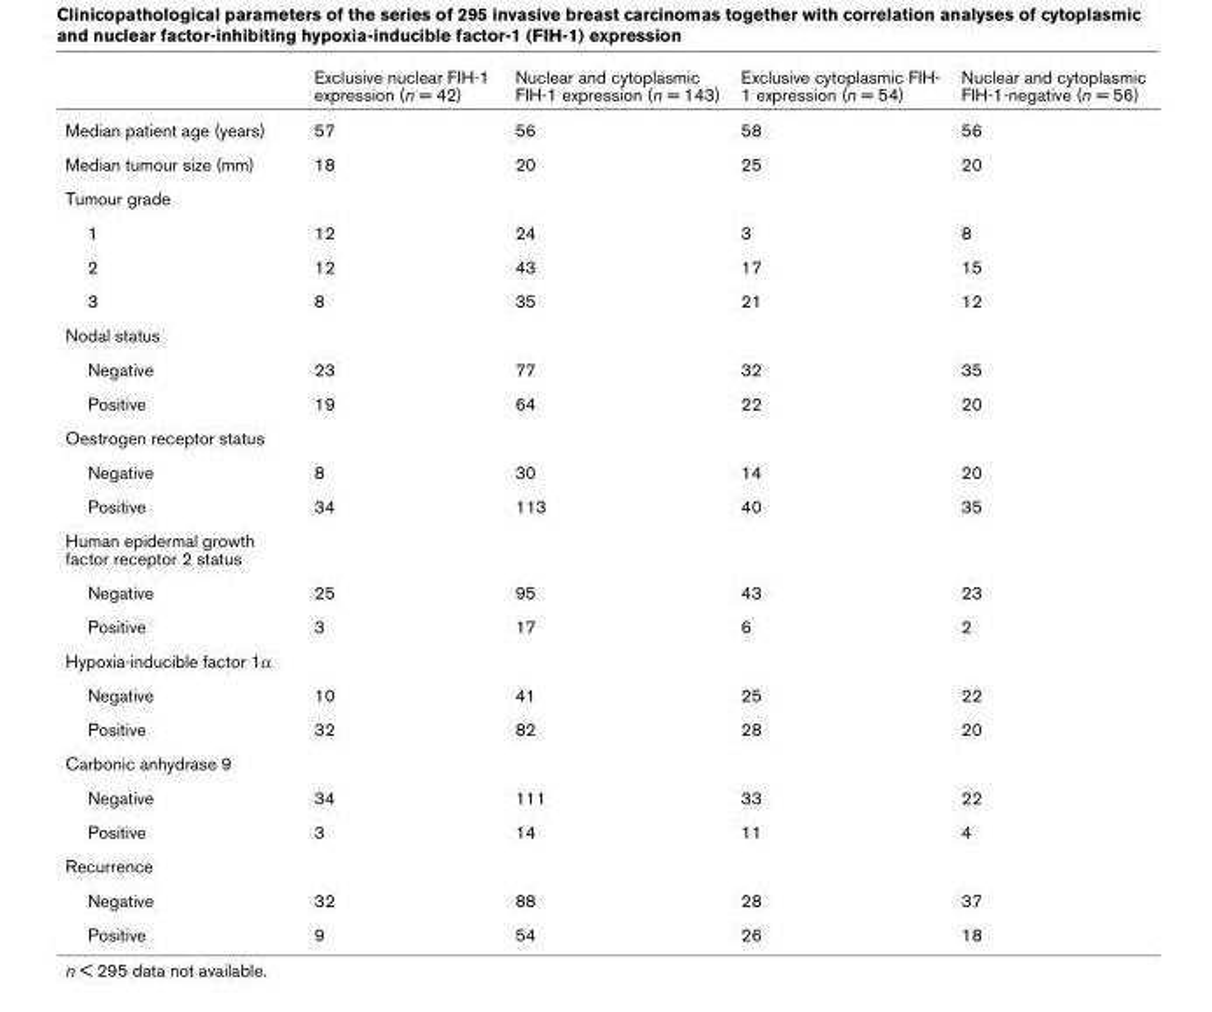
<table><thead><tr><td></td><td>Exclusive nuclear FIH-1 expression (n = 42)</td><td>Nuclear and cytoplasmic FIH-1 expression (n = 143)</td><td>Exclusive cytoplasmic FIH- 1 expression (n = 54)</td><td>Nuclear and cytoplasmic FIH-1-negative (n = 56)</td></tr></thead><tbody><tr><td>Median patient age (years)</td><td>57</td><td>56</td><td>58</td><td>56</td></tr><tr><td>Median tumour size (mm)</td><td>18</td><td>20</td><td>25</td><td>20</td></tr><tr><td colspan="5">Tumour grade</td></tr><tr><td>1</td><td>12</td><td>24</td><td>3</td><td>8</td></tr><tr><td>2</td><td>12</td><td>43</td><td>17</td><td>15</td></tr><tr><td>3</td><td>8</td><td>35</td><td>21</td><td>12</td></tr><tr><td colspan="5">Nodal status</td></tr><tr><td>Negative</td><td>23</td><td>77</td><td>32</td><td>35</td></tr><tr><td>Positive</td><td>19</td><td>64</td><td>22</td><td>20</td></tr><tr><td colspan="5">Oestrogen receptor status</td></tr><tr><td>Negative</td><td>8</td><td>30</td><td>14</td><td>20</td></tr><tr><td>Positive</td><td>34</td><td>113</td><td>40</td><td>35</td></tr><tr><td colspan="5">Human epidermal growth factor receptor 2 status</td></tr><tr><td>Negative</td><td>25</td><td>95</td><td>43</td><td>23</td></tr><tr><td>Positive</td><td>3</td><td>17</td><td>6</td><td>2</td></tr><tr><td colspan="5">Hypoxia-inducible factor 1α</td></tr><tr><td>Negative</td><td>10</td><td>41</td><td>25</td><td>22</td></tr><tr><td>Positive</td><td>32</td><td>82</td><td>28</td><td>20</td></tr><tr><td colspan="5">Carbonic anhydrase 9</td></tr><tr><td>Negative</td><td>34</td><td>111</td><td>33</td><td>22</td></tr><tr><td>Positive</td><td>3</td><td>14</td><td>11</td><td>4</td></tr><tr><td colspan="5">Recurrence</td></tr><tr><td>Negative</td><td>32</td><td>88</td><td>28</td><td>37</td></tr><tr><td>Positive</td><td>9</td><td>54</td><td>26</td><td>18</td></tr></tbody></table>